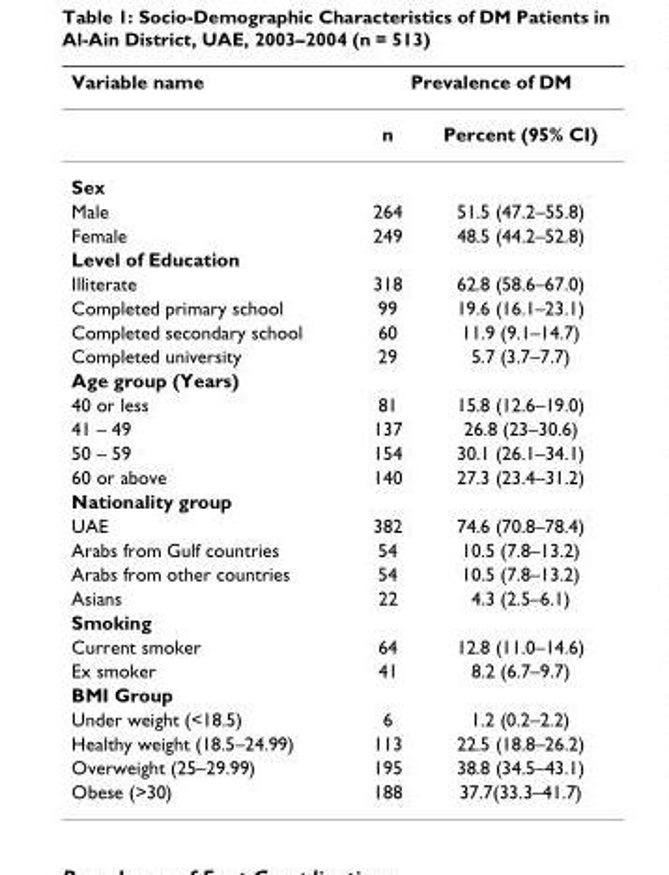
<table><thead><tr><td rowspan="2">Variable name</td><td colspan="2">Prevalence of DM</td></tr><tr><td>n</td><td>Percent (95% CI)</td></tr></thead><tbody><tr><td colspan="3">Sex</td></tr><tr><td>Male</td><td>264</td><td>51.5 (47.2–55.8)</td></tr><tr><td>Female</td><td>249</td><td>48.5 (44.2–52.8)</td></tr><tr><td colspan="3">Level of Education</td></tr><tr><td>Illiterate</td><td>318</td><td>62.8 (58.6–67.0)</td></tr><tr><td>Completed primary school</td><td>99</td><td>19.6 (16.1–23.1)</td></tr><tr><td>Completed secondary school</td><td>60</td><td>11.9 (9.1–14.7)</td></tr><tr><td>Completed university</td><td>29</td><td>5.7 (3.7–7.7)</td></tr><tr><td colspan="3">Age group (Years)</td></tr><tr><td>40 or less</td><td>81</td><td>15.8 (12.6–19.0)</td></tr><tr><td>41 – 49</td><td>137</td><td>26.8 (23–30.6)</td></tr><tr><td>50 – 59</td><td>154</td><td>30.1 (26.1–34.1)</td></tr><tr><td>60 or above</td><td>140</td><td>27.3 (23.4–31.2)</td></tr><tr><td colspan="3">Nationality group</td></tr><tr><td>UAE</td><td>382</td><td>74.6 (70.8–78.4)</td></tr><tr><td>Arabs from Gulf countries</td><td>54</td><td>10.5 (7.8–13.2)</td></tr><tr><td>Arabs from other countries</td><td>54</td><td>10.5 (7.8–13.2)</td></tr><tr><td>Asians</td><td>22</td><td>4.3 (2.5–6.1)</td></tr><tr><td colspan="3">Smoking</td></tr><tr><td>Current smoker</td><td>64</td><td>12.8 (11.0–14.6)</td></tr><tr><td>Ex smoker</td><td>41</td><td>8.2 (6.7–9.7)</td></tr><tr><td colspan="3">BMI Group</td></tr><tr><td>Under weight (&lt;18.5)</td><td>6</td><td>1.2 (0.2–2.2)</td></tr><tr><td>Healthy weight (18.5–24.99)</td><td>113</td><td>22.5 (18.8–26.2)</td></tr><tr><td>Overweight (25–29.99)</td><td>195</td><td>38.8 (34.5–43.1)</td></tr><tr><td>Obese (&gt;30)</td><td>188</td><td>37.7(33.3–41.7)</td></tr></tbody></table>